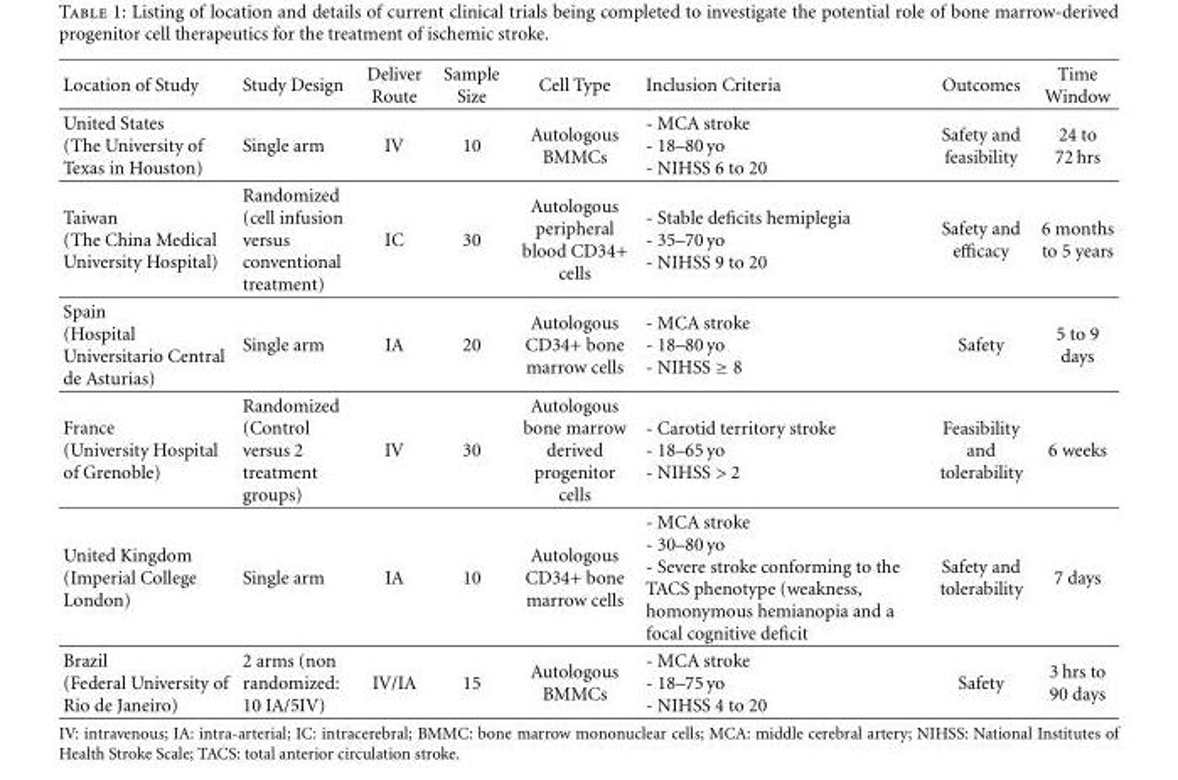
<table><thead><tr><td>Location of Study</td><td>Study Design</td><td>Deliver Route</td><td>Sample Size</td><td>Cell Type</td><td>Inclusion Criteria</td><td>Outcomes</td><td>Time Window</td></tr></thead><tbody><tr><td>United States (The University of Texas in Houston)</td><td>Single arm</td><td>IV</td><td>10</td><td>Autologous BMMCs</td><td>- MCA stroke - 18–80 yo - NIHSS 6 to 20</td><td>Safety and feasibility</td><td>24 to 72 hrs</td></tr><tr><td>Taiwan (The China Medical University Hospital)</td><td>Randomized (cell infusion versus conventional treatment)</td><td>IC</td><td>30</td><td>Autologous peripheral blood CD34+ cells</td><td>- Stable deficits hemiplegia - 35–70 yo - NIHSS 9 to 20</td><td>Safety and efficacy</td><td>6 months to 5 years</td></tr><tr><td>Spain (Hospital Universitario Central de Asturias)</td><td>Single arm</td><td>IA</td><td>20</td><td>Autologous CD34+ bone marrow cells</td><td>- MCA stroke - 18–80 yo - NIHSS ≥ 8</td><td>Safety</td><td>5 to 9 days</td></tr><tr><td>France (University Hospital of Grenoble)</td><td>Randomized (Control versus 2 treatment groups)</td><td>IV</td><td>30</td><td>Autologous bone marrow derived progenitor cells</td><td>- Carotid territory stroke - 18–65 yo - NIHSS &gt; 2</td><td>Feasibility and tolerability</td><td>6 weeks</td></tr><tr><td>United Kingdom (Imperial College London)</td><td>Single arm</td><td>IA</td><td>10</td><td>Autologous CD34+ bone marrow cells</td><td>- MCA stroke - 30–80 yo - Severe stroke conforming to the TACS phenotype (weakness, homonymous hemianopia and a focal cognitive deficit</td><td>Safety and tolerability</td><td>7 days</td></tr><tr><td>Brazil (Federal University of Rio de Janeiro)</td><td>2 arms (non randomized: 10 IA/5IV)</td><td>IV/IA</td><td>15</td><td>Autologous BMMCs</td><td>- MCA stroke - 18–75 yo - NIHSS 4 to 20</td><td>Safety</td><td>3 hrs to 90 days</td></tr></tbody></table>